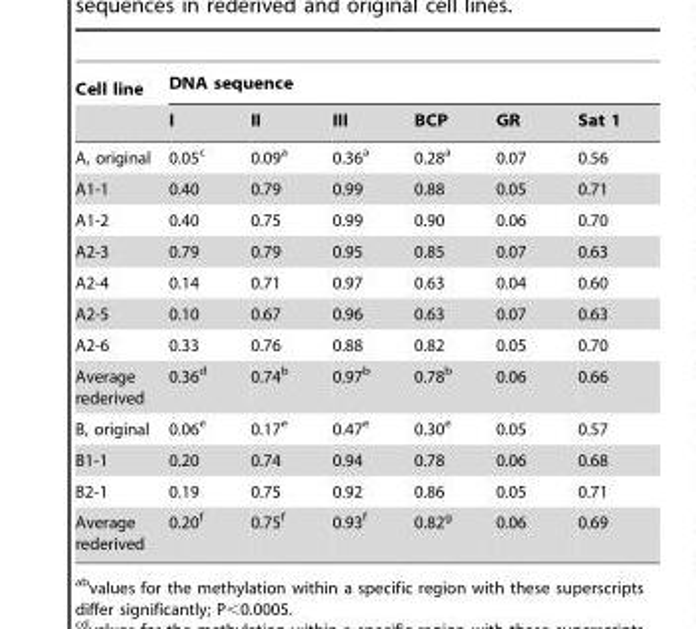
<table><thead><tr><td rowspan="2">Cell line</td><td colspan="6">DNA sequence</td></tr><tr><td>I</td><td>II</td><td>III</td><td>BCP</td><td>GR</td><td>Sat 1</td></tr></thead><tbody><tr><td>A, original</td><td>0.05<sup>c</sup></td><td>0.09<sup>a</sup></td><td>0.36<sup>a</sup></td><td>0.28<sup>a</sup></td><td>0.07</td><td>0.56</td></tr><tr><td>A1-1</td><td>0.40</td><td>0.79</td><td>0.99</td><td>0.88</td><td>0.05</td><td>0.71</td></tr><tr><td>A1-2</td><td>0.40</td><td>0.75</td><td>0.99</td><td>0.90</td><td>0.06</td><td>0.70</td></tr><tr><td>A2-3</td><td>0.79</td><td>0.79</td><td>0.95</td><td>0.85</td><td>0.07</td><td>0.63</td></tr><tr><td>A2-4</td><td>0.14</td><td>0.71</td><td>0.97</td><td>0.63</td><td>0.04</td><td>0.60</td></tr><tr><td>A2-5</td><td>0.10</td><td>0.67</td><td>0.96</td><td>0.63</td><td>0.07</td><td>0.63</td></tr><tr><td>A2-6</td><td>0.33</td><td>0.76</td><td>0.88</td><td>0.82</td><td>0.05</td><td>0.70</td></tr><tr><td>Average rederived</td><td>0.36<sup>d</sup></td><td>0.74<sup>b</sup></td><td>0.97<sup>b</sup></td><td>0.78<sup>b</sup></td><td>0.06</td><td>0.66</td></tr><tr><td>B, original</td><td>0.06<sup>e</sup></td><td>0.17<sup>e</sup></td><td>0.47<sup>e</sup></td><td>0.30<sup>e</sup></td><td>0.05</td><td>0.57</td></tr><tr><td>B1-1</td><td>0.20</td><td>0.74</td><td>0.94</td><td>0.78</td><td>0.06</td><td>0.68</td></tr><tr><td>B2-1</td><td>0.19</td><td>0.75</td><td>0.92</td><td>0.86</td><td>0.05</td><td>0.71</td></tr><tr><td>Average rederived</td><td>0.20<sup>f</sup></td><td>0.75<sup>f</sup></td><td>0.93<sup>f</sup></td><td>0.82<sup>g</sup></td><td>0.06</td><td>0.69</td></tr></tbody></table>